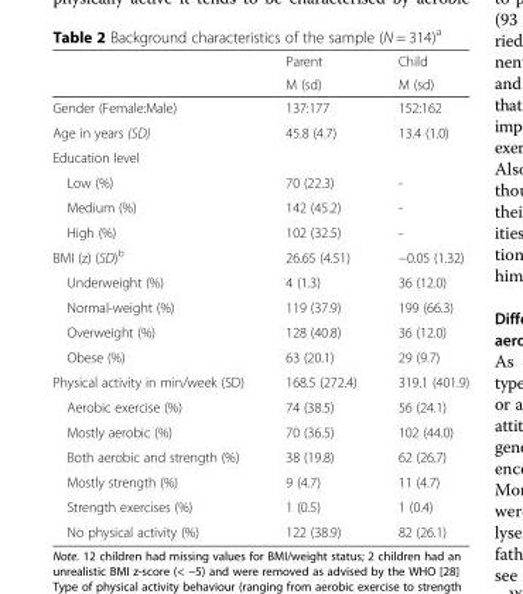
<table><thead><tr><td rowspan="2"></td><td rowspan="2">Parent M (sd)</td><td rowspan="2">Child M (sd)</td></tr><tr></tr></thead><tbody><tr><td>Gender (Female:Male)</td><td>137:177</td><td>152:162</td></tr><tr><td>Age in years (SD)</td><td>45.8 (4.7)</td><td>13.4 (1.0)</td></tr><tr><td colspan="3">Education level</td></tr><tr><td>Low (%)</td><td>70 (22.3)</td><td>-</td></tr><tr><td>Medium (%)</td><td>142 (45.2)</td><td>-</td></tr><tr><td>High (%)</td><td>102 (32.5)</td><td>-</td></tr><tr><td>BMI (z) (SD)<sup>b</sup></td><td>26.65 (4.51)</td><td>−0.05 (1.32)</td></tr><tr><td>Underweight (%)</td><td>4 (1.3)</td><td>36 (12.0)</td></tr><tr><td>Normal-weight (%)</td><td>119 (37.9)</td><td>199 (66.3)</td></tr><tr><td>Overweight (%)</td><td>128 (40.8)</td><td>36 (12.0)</td></tr><tr><td>Obese (%)</td><td>63 (20.1)</td><td>29 (9.7)</td></tr><tr><td>Physical activity in min/week (SD)</td><td>168.5 (272.4)</td><td>319.1 (401.9)</td></tr><tr><td>Aerobic exercise (%)</td><td>74 (38.5)</td><td>56 (24.1)</td></tr><tr><td>Mostly aerobic (%)</td><td>70 (36.5)</td><td>102 (44.0)</td></tr><tr><td>Both aerobic and strength (%)</td><td>38 (19.8)</td><td>62 (26.7)</td></tr><tr><td>Mostly strength (%)</td><td>9 (4.7)</td><td>11 (4.7)</td></tr><tr><td>Strength exercises (%)</td><td>1 (0.5)</td><td>1 (0.4)</td></tr><tr><td>No physical activity (%)</td><td>122 (38.9)</td><td>82 (26.1)</td></tr></tbody></table>